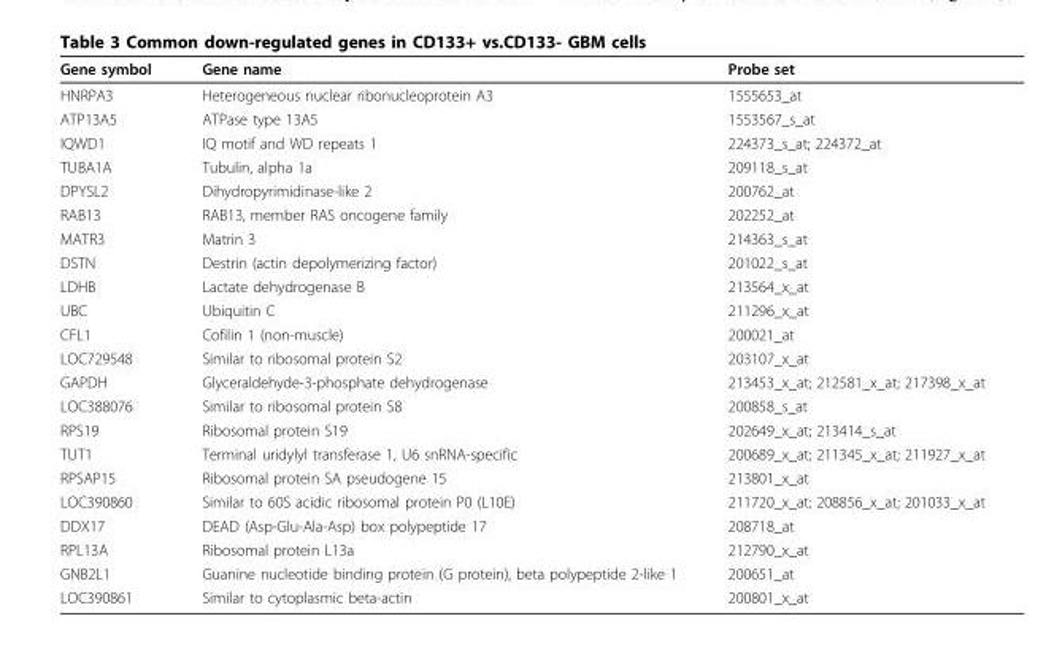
<table><thead><tr><td>Gene symbol</td><td>Gene name</td><td>Probe set</td></tr></thead><tbody><tr><td>HNRPA3</td><td>Heterogeneous nuclear ribonucleoprotein A3</td><td>1555653_at</td></tr><tr><td>ATP13A5</td><td>ATPase type 13A5</td><td>1553567_s_at</td></tr><tr><td>IQWD1</td><td>IQ motif and WD repeats 1</td><td>224373_s_at; 224372_at</td></tr><tr><td>TUBA1A</td><td>Tubulin, alpha 1a</td><td>209118_s_at</td></tr><tr><td>DPYSL2</td><td>Dihydropyrimidinase-like 2</td><td>200762_at</td></tr><tr><td>RAB13</td><td>RAB13, member RAS oncogene family</td><td>202252_at</td></tr><tr><td>MATR3</td><td>Matrin 3</td><td>214363_s_at</td></tr><tr><td>DSTN</td><td>Destrin (actin depolymerizing factor)</td><td>201022_s_at</td></tr><tr><td>LDHB</td><td>Lactate dehydrogenase B</td><td>213564_x_at</td></tr><tr><td>UBC</td><td>Ubiquitin C</td><td>211296_x_at</td></tr><tr><td>CFL1</td><td>Cofilin 1 (non-muscle)</td><td>200021_at</td></tr><tr><td>LOC729548</td><td>Similar to ribosomal protein S2</td><td>203107_x_at</td></tr><tr><td>GAPDH</td><td>Glyceraldehyde-3-phosphate dehydrogenase</td><td>213453_x_at; 212581_x_at; 217398_x_at</td></tr><tr><td>LOC388076</td><td>Similar to ribosomal protein S8</td><td>200858_s_at</td></tr><tr><td>RPS19</td><td>Ribosomal protein S19</td><td>202649_x_at; 213414_s_at</td></tr><tr><td>TUT1</td><td>Terminal uridylyl transferase 1, U6 snRNA-specific</td><td>200689_x_at; 211345_x_at; 211927_x_at</td></tr><tr><td>RPSAP15</td><td>Ribosomal protein SA pseudogene 15</td><td>213801_x_at</td></tr><tr><td>LOC390860</td><td>Similar to 60S acidic ribosomal protein P0 (L10E)</td><td>211720_x_at; 208856_x_at; 201033_x_at</td></tr><tr><td>DDX17</td><td>DEAD (Asp-Glu-Ala-Asp) box polypeptide 17</td><td>208718_at</td></tr><tr><td>RPL13A</td><td>Ribosomal protein L13a</td><td>212790_x_at</td></tr><tr><td>GNB2L1</td><td>Guanine nucleotide binding protein (G protein), beta polypeptide 2-like 1</td><td>200651_at</td></tr><tr><td>LOC390861</td><td>Similar to cytoplasmic beta-actin</td><td>200801_x_at</td></tr></tbody></table>